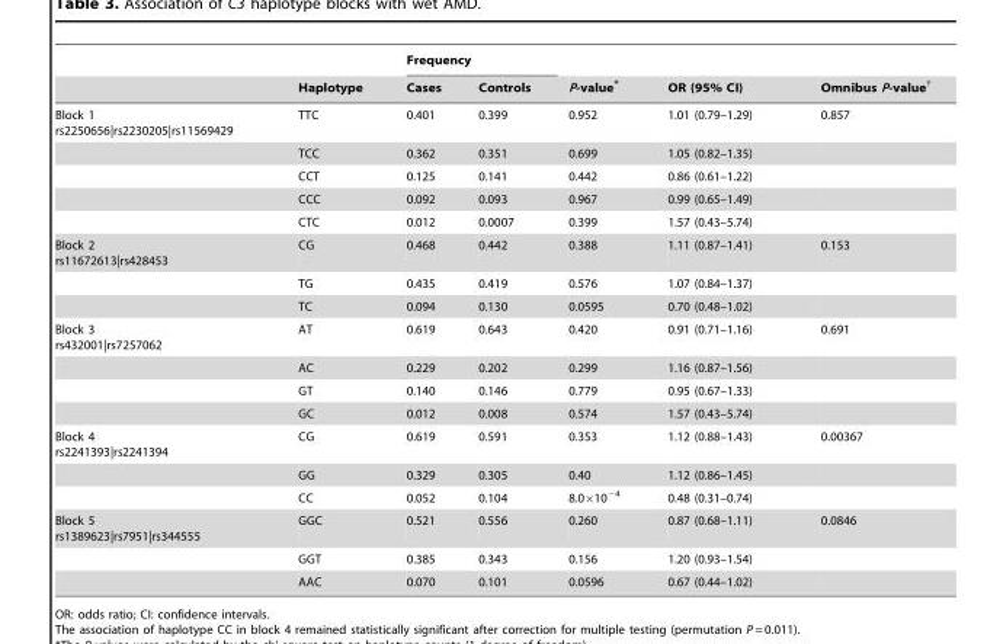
<table><thead><tr><td rowspan="2"></td><td rowspan="2">Haplotype</td><td colspan="2">Frequency</td><td rowspan="2">P-value*</td><td rowspan="2">OR (95% CI)</td><td rowspan="2">Omnibus P-value†</td></tr><tr><td>Cases</td><td>Controls</td></tr></thead><tbody><tr><td rowspan="5">Block 1 rs2250656|rs2230205|rs11569429</td><td>TTC</td><td>0.401</td><td>0.399</td><td>0.952</td><td>1.01 (0.79–1.29)</td><td>0.857</td></tr><tr><td>TCC</td><td>0.362</td><td>0.351</td><td>0.699</td><td>1.05 (0.82–1.35)</td><td></td></tr><tr><td>CCT</td><td>0.125</td><td>0.141</td><td>0.442</td><td>0.86 (0.61–1.22)</td><td></td></tr><tr><td>CCC</td><td>0.092</td><td>0.093</td><td>0.967</td><td>0.99 (0.65–1.49)</td><td></td></tr><tr><td>CTC</td><td>0.012</td><td>0.0007</td><td>0.399</td><td>1.57 (0.43–5.74)</td><td></td></tr><tr><td rowspan="3">Block 2 rs11672613|rs428453</td><td>CG</td><td>0.468</td><td>0.442</td><td>0.388</td><td>1.11 (0.87–1.41)</td><td>0.153</td></tr><tr><td>TG</td><td>0.435</td><td>0.419</td><td>0.576</td><td>1.07 (0.84–1.37)</td><td></td></tr><tr><td>TC</td><td>0.094</td><td>0.130</td><td>0.0595</td><td>0.70 (0.48–1.02)</td><td></td></tr><tr><td rowspan="4">Block 3 rs432001|rs7257062</td><td>AT</td><td>0.619</td><td>0.643</td><td>0.420</td><td>0.91 (0.71–1.16)</td><td>0.691</td></tr><tr><td>AC</td><td>0.229</td><td>0.202</td><td>0.299</td><td>1.16 (0.87–1.56)</td><td></td></tr><tr><td>GT</td><td>0.140</td><td>0.146</td><td>0.779</td><td>0.95 (0.67–1.33)</td><td></td></tr><tr><td>GC</td><td>0.012</td><td>0.008</td><td>0.574</td><td>1.57 (0.43–5.74)</td><td></td></tr><tr><td rowspan="3">Block 4 rs2241393|rs2241394</td><td>CG</td><td>0.619</td><td>0.591</td><td>0.353</td><td>1.12 (0.88–1.43)</td><td>0.00367</td></tr><tr><td>GG</td><td>0.329</td><td>0.305</td><td>0.40</td><td>1.12 (0.86–1.45)</td><td></td></tr><tr><td>CC</td><td>0.052</td><td>0.104</td><td>8.0×10<sup>−4</sup></td><td>0.48 (0.31–0.74)</td><td></td></tr><tr><td rowspan="3">Block 5 rs1389623|rs7951|rs344555</td><td>GGC</td><td>0.521</td><td>0.556</td><td>0.260</td><td>0.87 (0.68–1.11)</td><td>0.0846</td></tr><tr><td>GGT</td><td>0.385</td><td>0.343</td><td>0.156</td><td>1.20 (0.93–1.54)</td><td></td></tr><tr><td>AAC</td><td>0.070</td><td>0.101</td><td>0.0596</td><td>0.67 (0.44–1.02)</td><td></td></tr></tbody></table>